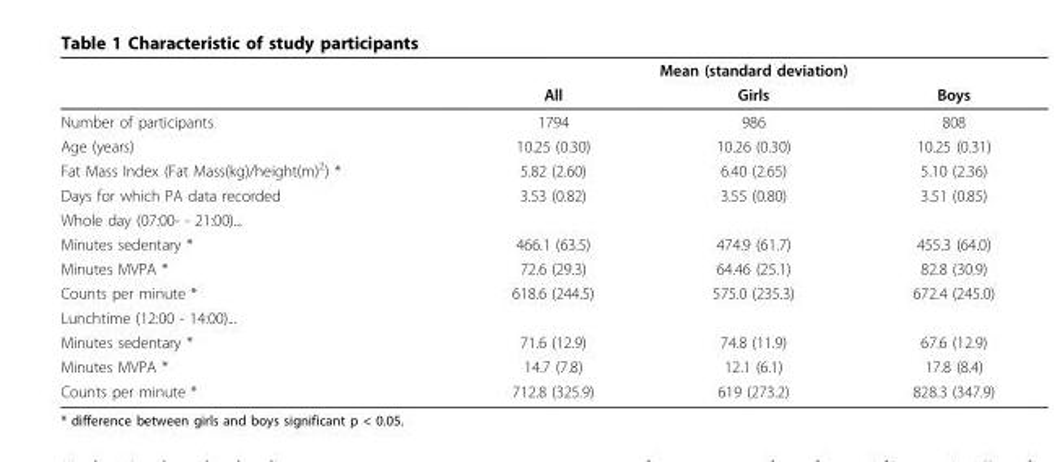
<table><thead><tr><td rowspan="2"></td><td colspan="3">Mean (standard deviation)</td></tr><tr><td>All</td><td>Girls</td><td>Boys</td></tr></thead><tbody><tr><td>Number of participants</td><td>1794</td><td>986</td><td>808</td></tr><tr><td>Age (years)</td><td>10.25 (0.30)</td><td>10.26 (0.30)</td><td>10.25 (0.31)</td></tr><tr><td>Fat Mass Index (Fat Mass(kg)/height(m)<sup>2</sup>) *</td><td>5.82 (2.60)</td><td>6.40 (2.65)</td><td>5.10 (2.36)</td></tr><tr><td>Days for which PA data recorded</td><td>3.53 (0.82)</td><td>3.55 (0.80)</td><td>3.51 (0.85)</td></tr><tr><td colspan="4">Whole day (07:00- - 21:00)...</td></tr><tr><td>Minutes sedentary *</td><td>466.1 (63.5)</td><td>474.9 (61.7)</td><td>455.3 (64.0)</td></tr><tr><td>Minutes MVPA *</td><td>72.6 (29.3)</td><td>64.46 (25.1)</td><td>82.8 (30.9)</td></tr><tr><td>Counts per minute *</td><td>618.6 (244.5)</td><td>575.0 (235.3)</td><td>672.4 (245.0)</td></tr><tr><td colspan="4">Lunchtime (12:00 - 14:00)...</td></tr><tr><td>Minutes sedentary *</td><td>71.6 (12.9)</td><td>74.8 (11.9)</td><td>67.6 (12.9)</td></tr><tr><td>Minutes MVPA *</td><td>14.7 (7.8)</td><td>12.1 (6.1)</td><td>17.8 (8.4)</td></tr><tr><td>Counts per minute *</td><td>712.8 (325.9)</td><td>619 (273.2)</td><td>828.3 (347.9)</td></tr></tbody></table>